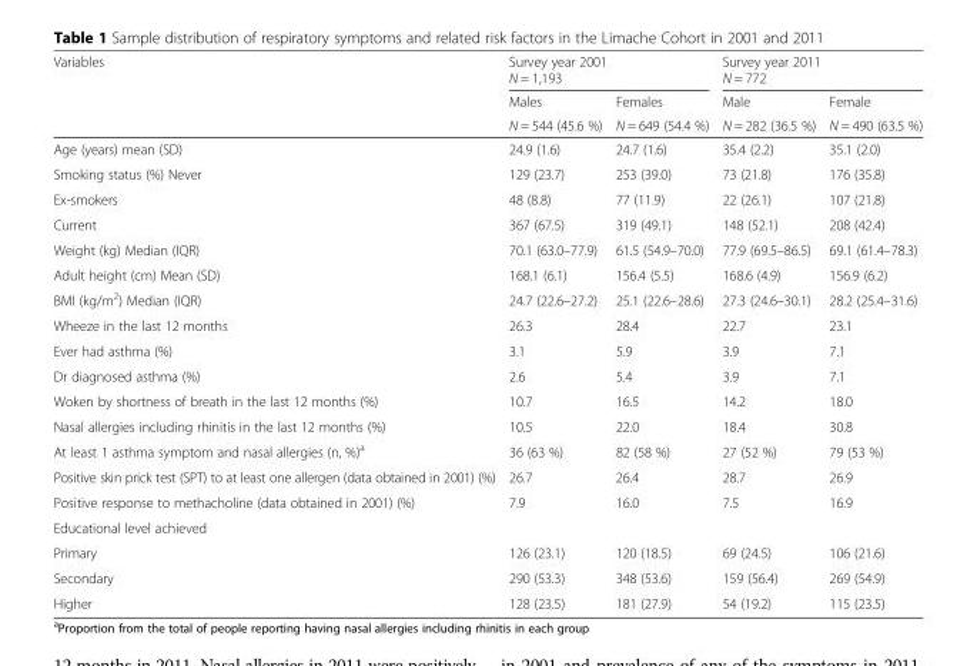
<table><thead><tr><td rowspan="3">Variables</td><td colspan="2">Survey year 2001 N = 1,193</td><td colspan="2">Survey year 2011 N = 772</td></tr><tr><td rowspan="2">Males N = 544 (45.6 %)</td><td rowspan="2">Females N = 649 (54.4 %)</td><td rowspan="2">Male N = 282 (36.5 %)</td><td rowspan="2">Female N = 490 (63.5 %)</td></tr><tr></tr></thead><tbody><tr><td>Age (years) mean (SD)</td><td>24.9 (1.6)</td><td>24.7 (1.6)</td><td>35.4 (2.2)</td><td>35.1 (2.0)</td></tr><tr><td>Smoking status (%) Never</td><td>129 (23.7)</td><td>253 (39.0)</td><td>73 (21.8)</td><td>176 (35.8)</td></tr><tr><td>Ex-smokers</td><td>48 (8.8)</td><td>77 (11.9)</td><td>22 (26.1)</td><td>107 (21.8)</td></tr><tr><td>Current</td><td>367 (67.5)</td><td>319 (49.1)</td><td>148 (52.1)</td><td>208 (42.4)</td></tr><tr><td>Weight (kg) Median (IQR)</td><td>70.1 (63.0–77.9)</td><td>61.5 (54.9–70.0)</td><td>77.9 (69.5–86.5)</td><td>69.1 (61.4–78.3)</td></tr><tr><td>Adult height (cm) Mean (SD)</td><td>168.1 (6.1)</td><td>156.4 (5.5)</td><td>168.6 (4.9)</td><td>156.9 (6.2)</td></tr><tr><td>BMI (kg/m<sup>2</sup>) Median (IQR)</td><td>24.7 (22.6–27.2)</td><td>25.1 (22.6–28.6)</td><td>27.3 (24.6–30.1)</td><td>28.2 (25.4–31.6)</td></tr><tr><td>Wheeze in the last 12 months</td><td>26.3</td><td>28.4</td><td>22.7</td><td>23.1</td></tr><tr><td>Ever had asthma (%)</td><td>3.1</td><td>5.9</td><td>3.9</td><td>7.1</td></tr><tr><td>Dr diagnosed asthma (%)</td><td>2.6</td><td>5.4</td><td>3.9</td><td>7.1</td></tr><tr><td>Woken by shortness of breath in the last 12 months (%)</td><td>10.7</td><td>16.5</td><td>14.2</td><td>18.0</td></tr><tr><td>Nasal allergies including rhinitis in the last 12 months (%)</td><td>10.5</td><td>22.0</td><td>18.4</td><td>30.8</td></tr><tr><td>At least 1 asthma symptom and nasal allergies (n, %)<sup>a</sup></td><td>36 (63 %)</td><td>82 (58 %)</td><td>27 (52 %)</td><td>79 (53 %)</td></tr><tr><td>Positive skin prick test (SPT) to at least one allergen (data obtained in 2001) (%)</td><td>26.7</td><td>26.4</td><td>28.7</td><td>26.9</td></tr><tr><td>Positive response to methacholine (data obtained in 2001) (%)</td><td>7.9</td><td>16.0</td><td>7.5</td><td>16.9</td></tr><tr><td colspan="5">Educational level achieved</td></tr><tr><td>Primary</td><td>126 (23.1)</td><td>120 (18.5)</td><td>69 (24.5)</td><td>106 (21.6)</td></tr><tr><td>Secondary</td><td>290 (53.3)</td><td>348 (53.6)</td><td>159 (56.4)</td><td>269 (54.9)</td></tr><tr><td>Higher</td><td>128 (23.5)</td><td>181 (27.9)</td><td>54 (19.2)</td><td>115 (23.5)</td></tr></tbody></table>